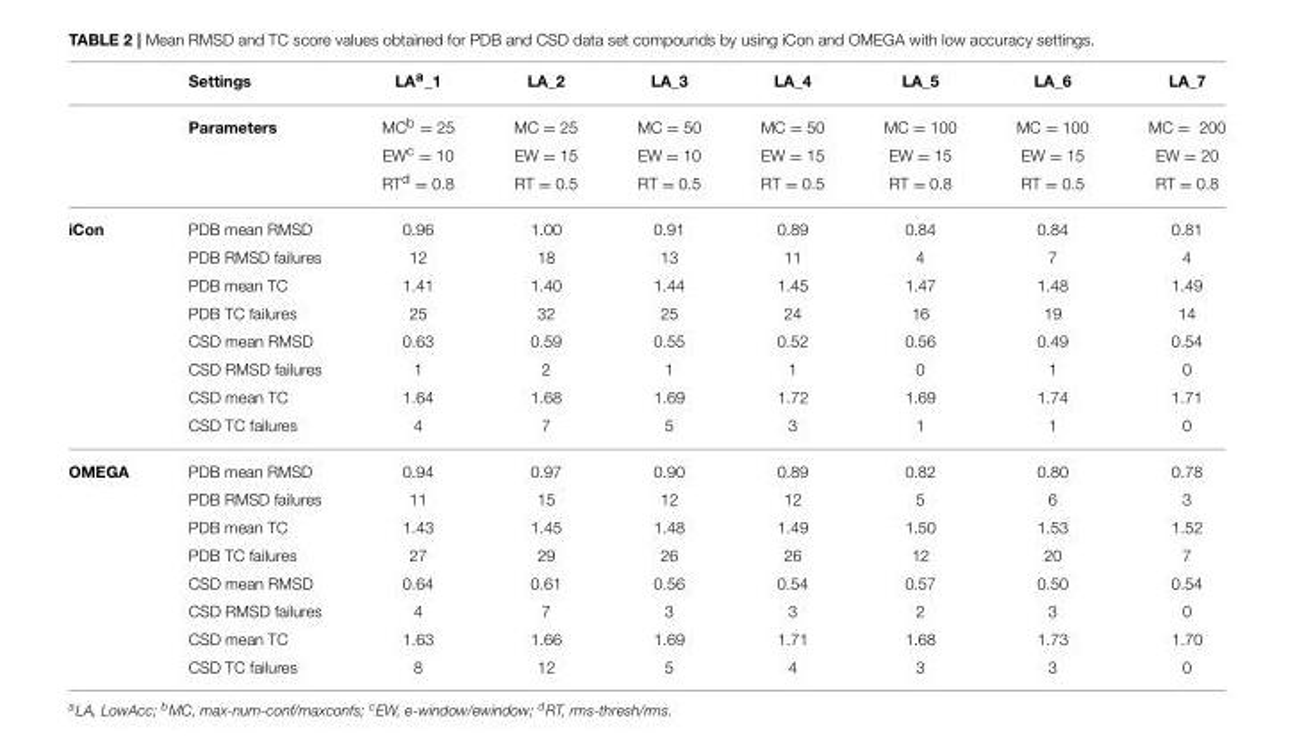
<table><thead><tr><td></td><td>Settings</td><td>LA<sup>a</sup>_1</td><td>LA_2</td><td>LA_3</td><td>LA_4</td><td>LA_5</td><td>LA_6</td><td>LA_7</td></tr></thead><tbody><tr><td></td><td>Parameters</td><td>MC<sup>b</sup> = 25</td><td>MC = 25</td><td>MC = 50</td><td>MC = 50</td><td>MC = 100</td><td>MC = 100</td><td>MC = 200</td></tr><tr><td></td><td></td><td>EW<sup>c</sup> = 10</td><td>EW = 15</td><td>EW = 10</td><td>EW = 15</td><td>EW = 15</td><td>EW = 15</td><td>EW = 20</td></tr><tr><td></td><td></td><td>RT<sup>d</sup> = 0.8</td><td>RT = 0.5</td><td>RT = 0.5</td><td>RT = 0.5</td><td>RT = 0.8</td><td>RT = 0.5</td><td>RT = 0.8</td></tr><tr><td rowspan="8">iCon</td><td>PDB mean RMSD</td><td>0.96</td><td>1.00</td><td>0.91</td><td>0.89</td><td>0.84</td><td>0.84</td><td>0.81</td></tr><tr><td>PDB RMSD failures</td><td>12</td><td>18</td><td>13</td><td>11</td><td>4</td><td>7</td><td>4</td></tr><tr><td>PDB mean TC</td><td>1.41</td><td>1.40</td><td>1.44</td><td>1.45</td><td>1.47</td><td>1.48</td><td>1.49</td></tr><tr><td>PDB TC failures</td><td>25</td><td>32</td><td>25</td><td>24</td><td>16</td><td>19</td><td>14</td></tr><tr><td>CSD mean RMSD</td><td>0.63</td><td>0.59</td><td>0.55</td><td>0.52</td><td>0.56</td><td>0.49</td><td>0.54</td></tr><tr><td>CSD RMSD failures</td><td>1</td><td>2</td><td>1</td><td>1</td><td>0</td><td>1</td><td>0</td></tr><tr><td>CSD mean TC</td><td>1.64</td><td>1.68</td><td>1.69</td><td>1.72</td><td>1.69</td><td>1.74</td><td>1.71</td></tr><tr><td>CSD TC failures</td><td>4</td><td>7</td><td>5</td><td>3</td><td>1</td><td>1</td><td>0</td></tr><tr><td rowspan="8">OMEGA</td><td>PDB mean RMSD</td><td>0.94</td><td>0.97</td><td>0.90</td><td>0.89</td><td>0.82</td><td>0.80</td><td>0.78</td></tr><tr><td>PDB RMSD failures</td><td>11</td><td>15</td><td>12</td><td>12</td><td>5</td><td>6</td><td>3</td></tr><tr><td>PDB mean TC</td><td>1.43</td><td>1.45</td><td>1.48</td><td>1.49</td><td>1.50</td><td>1.53</td><td>1.52</td></tr><tr><td>PDB TC failures</td><td>27</td><td>29</td><td>26</td><td>26</td><td>12</td><td>20</td><td>7</td></tr><tr><td>CSD mean RMSD</td><td>0.64</td><td>0.61</td><td>0.56</td><td>0.54</td><td>0.57</td><td>0.50</td><td>0.54</td></tr><tr><td>CSD RMSD failures</td><td>4</td><td>7</td><td>3</td><td>3</td><td>2</td><td>3</td><td>0</td></tr><tr><td>CSD mean TC</td><td>1.63</td><td>1.66</td><td>1.69</td><td>1.71</td><td>1.68</td><td>1.73</td><td>1.70</td></tr><tr><td>CSD TC failures</td><td>8</td><td>12</td><td>5</td><td>4</td><td>3</td><td>3</td><td>0</td></tr></tbody></table>